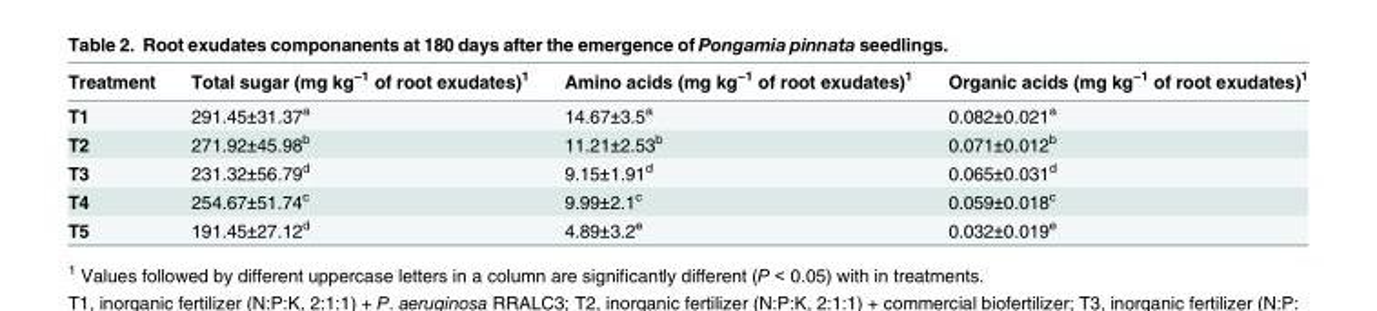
<table><thead><tr><td>Treatment</td><td>Total sugar (mg kg<sup>−1</sup> of root exudates)<sup>1</sup></td><td>Amino acids (mg kg<sup>−1</sup> of root exudates)<sup>1</sup></td><td>Organic acids (mg kg<sup>−1</sup> of root exudates)<sup>1</sup></td></tr></thead><tbody><tr><td>T1</td><td>291.45±31.37<sup>a</sup></td><td>14.67±3.5<sup>a</sup></td><td>0.082±0.021<sup>a</sup></td></tr><tr><td>T2</td><td>271.92±45.98<sup>b</sup></td><td>11.21±2.53<sup>b</sup></td><td>0.071±0.012<sup>b</sup></td></tr><tr><td>T3</td><td>231.32±56.79<sup>d</sup></td><td>9.15±1.91<sup>d</sup></td><td>0.065±0.031<sup>d</sup></td></tr><tr><td>T4</td><td>254.67±51.74<sup>c</sup></td><td>9.99±2.1<sup>c</sup></td><td>0.059±0.018<sup>c</sup></td></tr><tr><td>T5</td><td>191.45±27.12<sup>d</sup></td><td>4.89±3.2<sup>e</sup></td><td>0.032±0.019<sup>e</sup></td></tr></tbody></table>